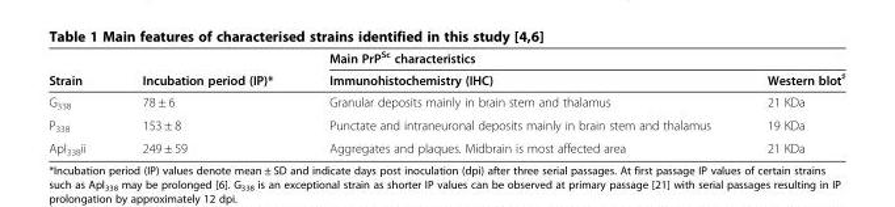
<table><thead><tr><td rowspan="2">Strain</td><td rowspan="2">Incubation period (IP)*</td><td colspan="2">Main PrP<sup>Sc</sup> characteristics</td></tr><tr><td>Immunohistochemistry (IHC)</td><td>Western blot<sup>♯</sup></td></tr></thead><tbody><tr><td>G<sub>338</sub></td><td>78 ± 6</td><td>Granular deposits mainly in brain stem and thalamus</td><td>21 KDa</td></tr><tr><td>P<sub>338</sub></td><td>153 ± 8</td><td>Punctate and intraneuronal deposits mainly in brain stem and thalamus</td><td>19 KDa</td></tr><tr><td>Apl<sub>338</sub>ii</td><td>249 ± 59</td><td>Aggregates and plaques. Midbrain is most affected area</td><td>21 KDa</td></tr></tbody></table>